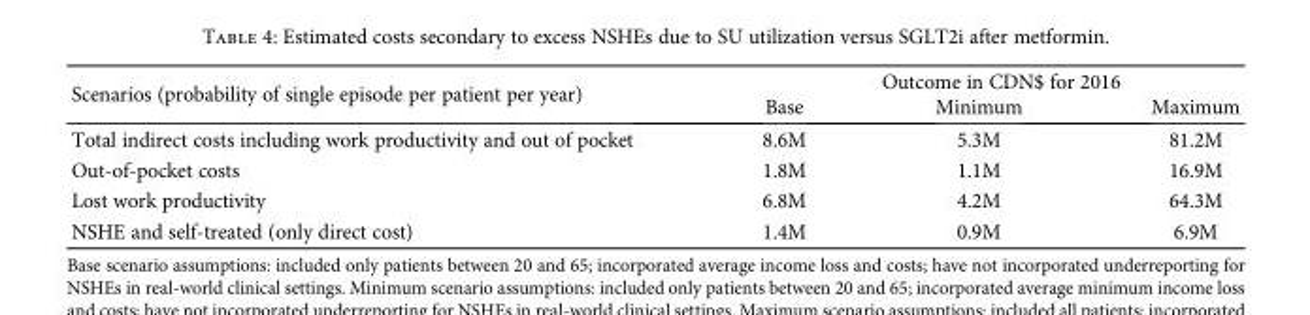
<table><thead><tr><td rowspan="2">Scenarios (probability of single episode per patient per year)</td><td colspan="3">Outcome in CDN$ for 2016</td></tr><tr><td>Base</td><td>Minimum</td><td>Maximum</td></tr></thead><tbody><tr><td>Total indirect costs including work productivity and out of pocket</td><td>8.6M</td><td>5.3M</td><td>81.2M</td></tr><tr><td>Out-of-pocket costs</td><td>1.8M</td><td>1.1M</td><td>16.9M</td></tr><tr><td>Lost work productivity</td><td>6.8M</td><td>4.2M</td><td>64.3M</td></tr><tr><td>NSHE and self-treated (only direct cost)</td><td>1.4M</td><td>0.9M</td><td>6.9M</td></tr></tbody></table>